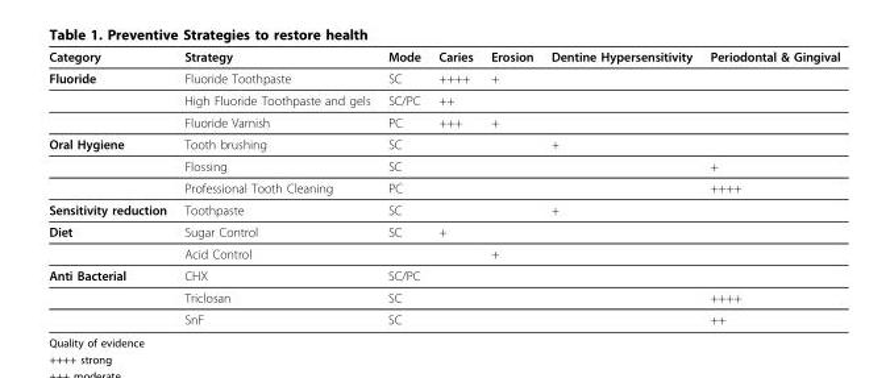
<table><thead><tr><td>Category</td><td>Strategy</td><td>Mode</td><td>Caries</td><td>Erosion</td><td>Dentine Hypersensitivity</td><td>Periodontal &amp; Gingival</td></tr></thead><tbody><tr><td rowspan="3">Fluoride</td><td>Fluoride Toothpaste</td><td>SC</td><td>++++</td><td>+</td><td></td><td></td></tr><tr><td>High Fluoride Toothpaste and gels</td><td>SC/PC</td><td>++</td><td></td><td></td><td></td></tr><tr><td>Fluoride Varnish</td><td>PC</td><td>+++</td><td>+</td><td></td><td></td></tr><tr><td rowspan="3">Oral Hygiene</td><td>Tooth brushing</td><td>SC</td><td></td><td></td><td>+</td><td></td></tr><tr><td>Flossing</td><td>SC</td><td></td><td></td><td></td><td>+</td></tr><tr><td>Professional Tooth Cleaning</td><td>PC</td><td></td><td></td><td></td><td>++++</td></tr><tr><td>Sensitivity reduction</td><td>Toothpaste</td><td>SC</td><td></td><td></td><td>+</td><td></td></tr><tr><td rowspan="2">Diet</td><td>Sugar Control</td><td>SC</td><td>+</td><td></td><td></td><td></td></tr><tr><td>Acid Control</td><td></td><td></td><td>+</td><td></td><td></td></tr><tr><td rowspan="3">Anti Bacterial</td><td>CHX</td><td>SC/PC</td><td></td><td></td><td></td><td></td></tr><tr><td>Triclosan</td><td>SC</td><td></td><td></td><td></td><td>++++</td></tr><tr><td>SnF</td><td>SC</td><td></td><td></td><td></td><td>++</td></tr></tbody></table>